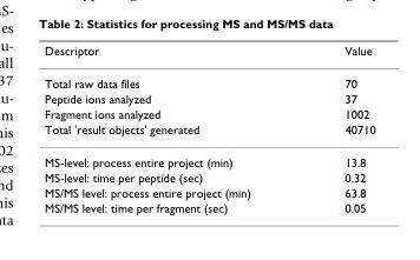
<table><thead><tr><td>Descriptor</td><td>Value</td></tr></thead><tbody><tr><td>Total raw data files</td><td>70</td></tr><tr><td>Peptide ions analyzed</td><td>37</td></tr><tr><td>Fragment ions analyzed</td><td>1002</td></tr><tr><td>Total &#x27;result objects&#x27; generated</td><td>40710</td></tr><tr><td>MS-level: process entire project (min)</td><td>13.8</td></tr><tr><td>MS-level: time per peptide (sec)</td><td>0.32</td></tr><tr><td>MS/MS level: process entire project (min)</td><td>63.8</td></tr><tr><td>MS/MS level: time per fragment (sec)</td><td>0.05</td></tr></tbody></table>